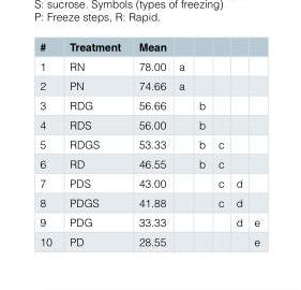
<table><thead><tr><td>#</td><td>Treatment</td><td>Mean</td><td></td><td></td><td></td><td></td><td></td></tr></thead><tbody><tr><td>1</td><td>RN</td><td>78.00</td><td>a</td><td></td><td></td><td></td><td></td></tr><tr><td>2</td><td>PN</td><td>74.66</td><td>a</td><td></td><td></td><td></td><td></td></tr><tr><td>3</td><td>RDG</td><td>56.66</td><td></td><td>b</td><td></td><td></td><td></td></tr><tr><td>4</td><td>RDS</td><td>56.00</td><td></td><td>b</td><td></td><td></td><td></td></tr><tr><td>5</td><td>RDGS</td><td>53.33</td><td></td><td>b</td><td>c</td><td></td><td></td></tr><tr><td>6</td><td>RD</td><td>46.55</td><td></td><td>b</td><td>c</td><td></td><td></td></tr><tr><td>7</td><td>PDS</td><td>43.00</td><td></td><td></td><td>c</td><td>d</td><td></td></tr><tr><td>8</td><td>PDGS</td><td>41.88</td><td></td><td></td><td>c</td><td>d</td><td></td></tr><tr><td>9</td><td>PDG</td><td>33.33</td><td></td><td></td><td></td><td>d</td><td>e</td></tr><tr><td>10</td><td>PD</td><td>28.55</td><td></td><td></td><td></td><td></td><td>e</td></tr></tbody></table>